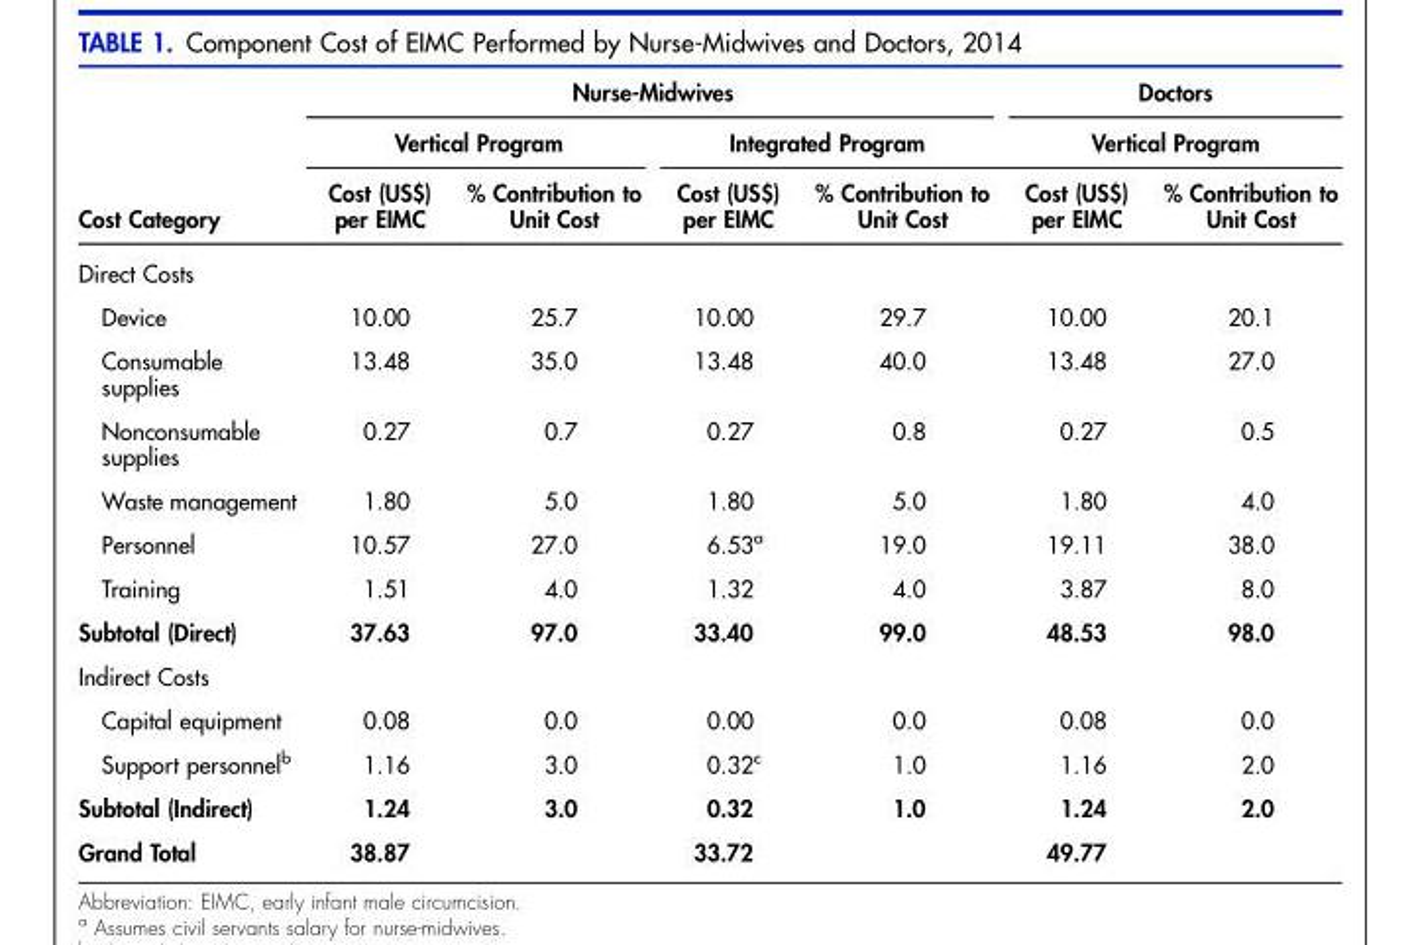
<table><thead><tr><td rowspan="3">Cost Category</td><td colspan="4">Nurse-Midwives</td><td rowspan="2" colspan="2">Doctors Vertical Program</td></tr><tr><td colspan="2">Vertical Program</td><td colspan="2">Integrated Program</td></tr><tr><td>Cost (US$) per EIMC</td><td>% Contribution to Unit Cost</td><td>Cost (US$) per EIMC</td><td>% Contribution to Unit Cost</td><td>Cost (US$) per EIMC</td><td>% Contribution to Unit Cost</td></tr></thead><tbody><tr><td colspan="7">Direct Costs</td></tr><tr><td>Device</td><td>10.00</td><td>25.7</td><td>10.00</td><td>29.7</td><td>10.00</td><td>20.1</td></tr><tr><td>Consumable supplies</td><td>13.48</td><td>35.0</td><td>13.48</td><td>40.0</td><td>13.48</td><td>27.0</td></tr><tr><td>Nonconsumable supplies</td><td>0.27</td><td>0.7</td><td>0.27</td><td>0.8</td><td>0.27</td><td>0.5</td></tr><tr><td>Waste management</td><td>1.80</td><td>5.0</td><td>1.80</td><td>5.0</td><td>1.80</td><td>4.0</td></tr><tr><td>Personnel</td><td>10.57</td><td>27.0</td><td>6.53<sup>a</sup></td><td>19.0</td><td>19.11</td><td>38.0</td></tr><tr><td>Training</td><td>1.51</td><td>4.0</td><td>1.32</td><td>4.0</td><td>3.87</td><td>8.0</td></tr><tr><td>Subtotal (Direct)</td><td>37.63</td><td>97.0</td><td>33.40</td><td>99.0</td><td>48.53</td><td>98.0</td></tr><tr><td colspan="7">Indirect Costs</td></tr><tr><td>Capital equipment</td><td>0.08</td><td>0.0</td><td>0.00</td><td>0.0</td><td>0.08</td><td>0.0</td></tr><tr><td>Support personnel<sup>b</sup></td><td>1.16</td><td>3.0</td><td>0.32<sup>c</sup></td><td>1.0</td><td>1.16</td><td>2.0</td></tr><tr><td>Subtotal (Indirect)</td><td>1.24</td><td>3.0</td><td>0.32</td><td>1.0</td><td>1.24</td><td>2.0</td></tr><tr><td>Grand Total</td><td>38.87</td><td></td><td>33.72</td><td></td><td>49.77</td><td></td></tr></tbody></table>